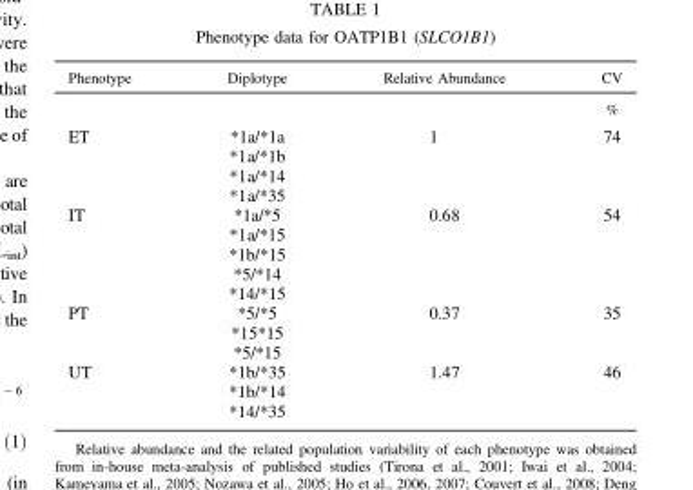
<table><thead><tr><td>Phenotype</td><td>Diplotype</td><td>Relative Abundance</td><td>CV</td></tr></thead><tbody><tr><td></td><td></td><td></td><td>%</td></tr><tr><td rowspan="4">ET</td><td>*1a/*1a</td><td>1</td><td>74</td></tr><tr><td>*1a/*1b</td><td></td><td></td></tr><tr><td>*1a/*14</td><td></td><td></td></tr><tr><td>*1a/*35</td><td></td><td></td></tr><tr><td rowspan="5">IT</td><td>*1a/*5</td><td>0.68</td><td>54</td></tr><tr><td>*1a/*15</td><td></td><td></td></tr><tr><td>*1b/*15</td><td></td><td></td></tr><tr><td>*5/*14</td><td></td><td></td></tr><tr><td>*14/*15</td><td></td><td></td></tr><tr><td rowspan="3">PT</td><td>*5/*5</td><td>0.37</td><td>35</td></tr><tr><td>*15*15</td><td></td><td></td></tr><tr><td>*5/*15</td><td></td><td></td></tr><tr><td rowspan="3">UT</td><td>*1b/*35</td><td>1.47</td><td>46</td></tr><tr><td>*1b/*14</td><td></td><td></td></tr><tr><td>*14/*35</td><td></td><td></td></tr></tbody></table>